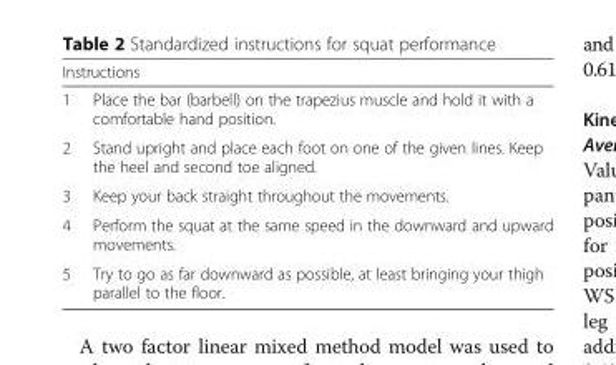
<table><thead><tr><td colspan="2">Instructions</td></tr><tr><td>1</td><td>Place the bar (barbell) on the trapezius muscle and hold it with a comfortable hand position.</td></tr></thead><tbody><tr><td>2</td><td>Stand upright and place each foot on one of the given lines. Keep the heel and second toe aligned.</td></tr><tr><td>3</td><td>Keep your back straight throughout the movements.</td></tr><tr><td>4</td><td>Perform the squat at the same speed in the downward and upward movements.</td></tr><tr><td>5</td><td>Try to go as far downward as possible, at least bringing your thigh parallel to the floor.</td></tr></tbody></table>